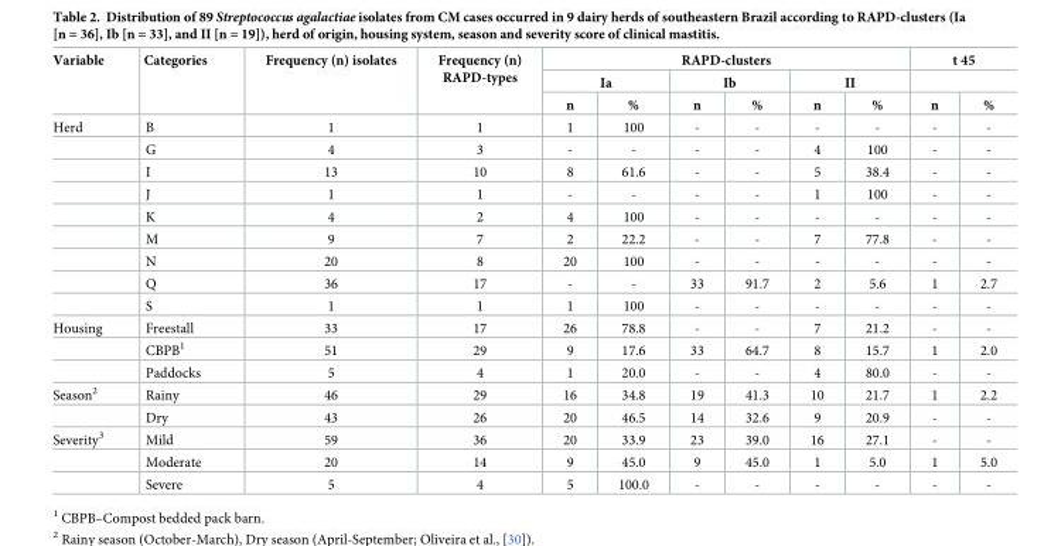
<table><thead><tr><td rowspan="3">Variable</td><td rowspan="3">Categories</td><td rowspan="3">Frequency (n) isolates</td><td rowspan="3">Frequency (n) RAPD-types</td><td colspan="6">RAPD-clusters</td><td colspan="2">t 45</td></tr><tr><td colspan="2">Ia</td><td colspan="2">Ib</td><td colspan="2">II</td><td rowspan="2">n</td><td rowspan="2">%</td></tr><tr><td>n</td><td>%</td><td>n</td><td>%</td><td>n</td><td>%</td></tr></thead><tbody><tr><td rowspan="9">Herd</td><td>B</td><td>1</td><td>1</td><td>1</td><td>100</td><td>-</td><td>-</td><td>-</td><td>-</td><td>-</td><td>-</td></tr><tr><td>G</td><td>4</td><td>3</td><td>-</td><td>-</td><td>-</td><td>-</td><td>4</td><td>100</td><td>-</td><td>-</td></tr><tr><td>I</td><td>13</td><td>10</td><td>8</td><td>61.6</td><td>-</td><td>-</td><td>5</td><td>38.4</td><td>-</td><td>-</td></tr><tr><td>J</td><td>1</td><td>1</td><td>-</td><td>-</td><td>-</td><td>-</td><td>1</td><td>100</td><td>-</td><td>-</td></tr><tr><td>K</td><td>4</td><td>2</td><td>4</td><td>100</td><td>-</td><td>-</td><td>-</td><td>-</td><td>-</td><td>-</td></tr><tr><td>M</td><td>9</td><td>7</td><td>2</td><td>22.2</td><td>-</td><td>-</td><td>7</td><td>77.8</td><td>-</td><td>-</td></tr><tr><td>N</td><td>20</td><td>8</td><td>20</td><td>100</td><td>-</td><td>-</td><td>-</td><td>-</td><td>-</td><td>-</td></tr><tr><td>Q</td><td>36</td><td>17</td><td>-</td><td>-</td><td>33</td><td>91.7</td><td>2</td><td>5.6</td><td>1</td><td>2.7</td></tr><tr><td>S</td><td>1</td><td>1</td><td>1</td><td>100</td><td>-</td><td>-</td><td>-</td><td>-</td><td>-</td><td>-</td></tr><tr><td rowspan="3">Housing</td><td>Freestall</td><td>33</td><td>17</td><td>26</td><td>78.8</td><td>-</td><td>-</td><td>7</td><td>21.2</td><td>-</td><td>-</td></tr><tr><td>CBPB<sup>1</sup></td><td>51</td><td>29</td><td>9</td><td>17.6</td><td>33</td><td>64.7</td><td>8</td><td>15.7</td><td>1</td><td>2.0</td></tr><tr><td>Paddocks</td><td>5</td><td>4</td><td>1</td><td>20.0</td><td>-</td><td>-</td><td>4</td><td>80.0</td><td>-</td><td>-</td></tr><tr><td rowspan="2">Season<sup>2</sup></td><td>Rainy</td><td>46</td><td>29</td><td>16</td><td>34.8</td><td>19</td><td>41.3</td><td>10</td><td>21.7</td><td>1</td><td>2.2</td></tr><tr><td>Dry</td><td>43</td><td>26</td><td>20</td><td>46.5</td><td>14</td><td>32.6</td><td>9</td><td>20.9</td><td>-</td><td>-</td></tr><tr><td rowspan="3">Severity<sup>3</sup></td><td>Mild</td><td>59</td><td>36</td><td>20</td><td>33.9</td><td>23</td><td>39.0</td><td>16</td><td>27.1</td><td>-</td><td>-</td></tr><tr><td>Moderate</td><td>20</td><td>14</td><td>9</td><td>45.0</td><td>9</td><td>45.0</td><td>1</td><td>5.0</td><td>1</td><td>5.0</td></tr><tr><td>Severe</td><td>5</td><td>4</td><td>5</td><td>100.0</td><td>-</td><td>-</td><td>-</td><td>-</td><td>-</td><td>-</td></tr></tbody></table>